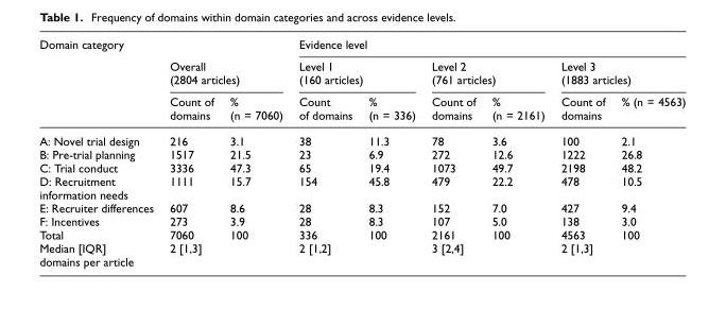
<table><thead><tr><td rowspan="3">Domain category</td><td></td><td></td><td colspan="6">Evidence level</td></tr><tr><td colspan="2">Overall (2804 articles)</td><td colspan="2">Level 1 (160 articles)</td><td colspan="2">Level 2 (761 articles)</td><td colspan="2">Level 3 (1883 articles)</td></tr><tr><td>Count of domains</td><td>% (n = 7060)</td><td>Count of domains</td><td>% (n = 336)</td><td>Count of domains</td><td>% (n = 2161)</td><td>Count of domains</td><td>% (n = 4563)</td></tr></thead><tbody><tr><td>A: Novel trial design</td><td>216</td><td>3.1</td><td>38</td><td>11.3</td><td>78</td><td>3.6</td><td>100</td><td>2.1</td></tr><tr><td>B: Pre-trial planning</td><td>1517</td><td>21.5</td><td>23</td><td>6.9</td><td>272</td><td>12.6</td><td>1222</td><td>26.8</td></tr><tr><td>C: Trial conduct</td><td>3336</td><td>47.3</td><td>65</td><td>19.4</td><td>1073</td><td>49.7</td><td>2198</td><td>48.2</td></tr><tr><td>D: Recruitment information needs</td><td>1111</td><td>15.7</td><td>154</td><td>45.8</td><td>479</td><td>22.2</td><td>478</td><td>10.5</td></tr><tr><td>E: Recruiter differences</td><td>607</td><td>8.6</td><td>28</td><td>8.3</td><td>152</td><td>7.0</td><td>427</td><td>9.4</td></tr><tr><td>F: Incentives</td><td>273</td><td>3.9</td><td>28</td><td>8.3</td><td>107</td><td>5.0</td><td>138</td><td>3.0</td></tr><tr><td>Total Median [IQR] domains per article</td><td>7060 2 [1,3]</td><td>100</td><td>336 2 [1,2]</td><td>100</td><td>2161 3 [2,4]</td><td>100</td><td>4563 2 [1,3]</td><td>100</td></tr></tbody></table>